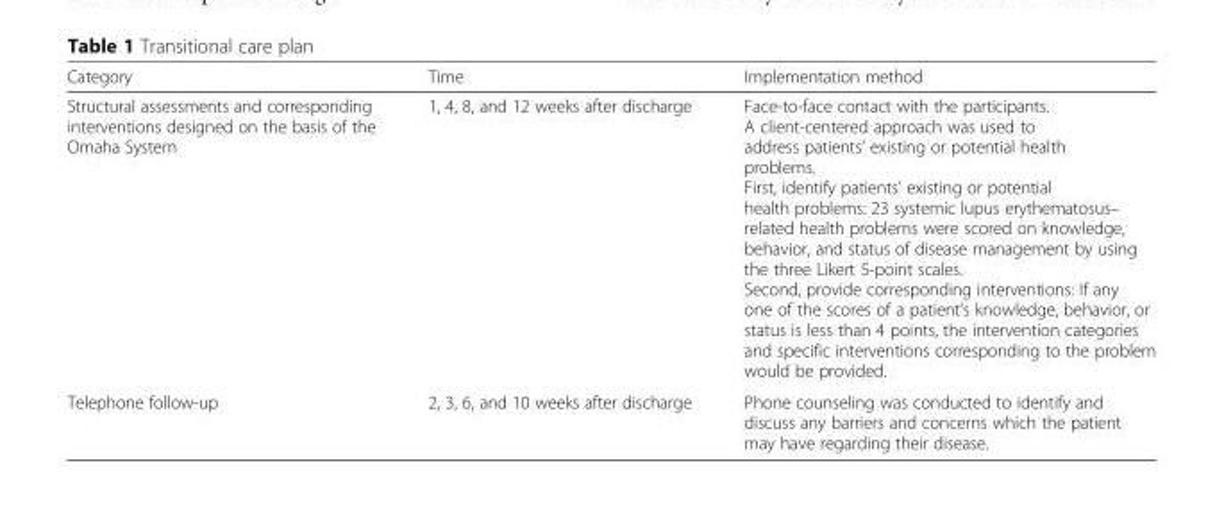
<table><thead><tr><td>Category</td><td>Time</td><td>Implementation method</td></tr></thead><tbody><tr><td>Structural assessments and corresponding interventions designed on the basis of the Omaha System</td><td>1, 4, 8, and 12 weeks after discharge</td><td>Face-to-face contact with the participants. A client-centered approach was used to address patients’ existing or potential health problems. First, identify patients’ existing or potential health problems: 23 systemic lupus erythematosus– related health problems were scored on knowledge, behavior, and status of disease management by using the three Likert 5-point scales. Second, provide corresponding interventions: If any one of the scores of a patient’s knowledge, behavior, or status is less than 4 points, the intervention categories and specific interventions corresponding to the problem would be provided.</td></tr><tr><td>Telephone follow-up</td><td>2, 3, 6, and 10 weeks after discharge</td><td>Phone counseling was conducted to identify and discuss any barriers and concerns which the patient may have regarding their disease.</td></tr></tbody></table>